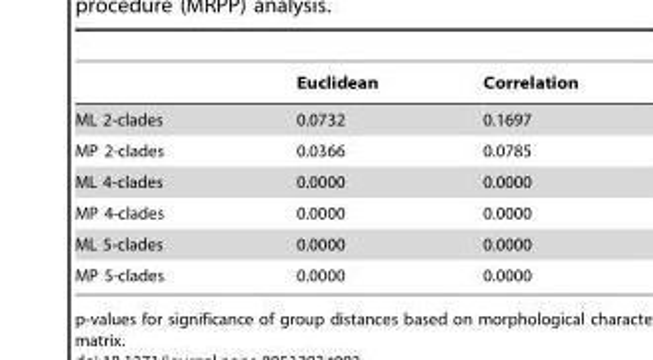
<table><thead><tr><td></td><td>Euclidean</td><td>Correlation</td></tr></thead><tbody><tr><td>ML 2-clades</td><td>0.0732</td><td>0.1697</td></tr><tr><td>MP 2-clades</td><td>0.0366</td><td>0.0785</td></tr><tr><td>ML 4-clades</td><td>0.0000</td><td>0.0000</td></tr><tr><td>MP 4-clades</td><td>0.0000</td><td>0.0000</td></tr><tr><td>ML 5-clades</td><td>0.0000</td><td>0.0000</td></tr><tr><td>MP 5-clades</td><td>0.0000</td><td>0.0000</td></tr></tbody></table>